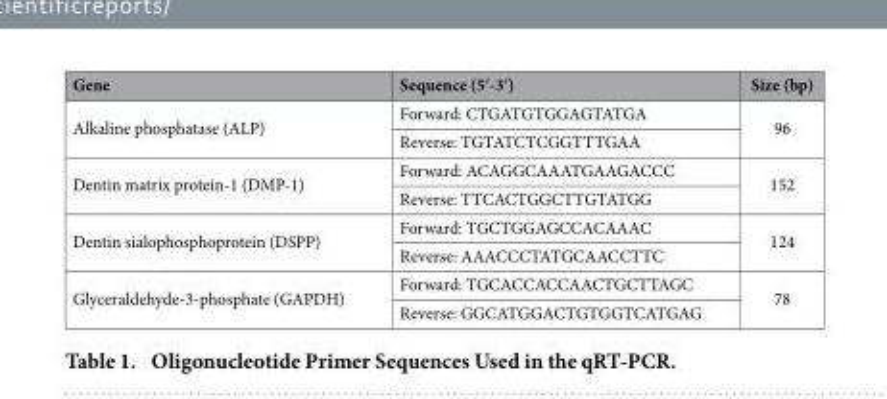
<table><thead><tr><td>Gene</td><td>Sequence (5′ -3′ )</td><td>Size (bp)</td></tr></thead><tbody><tr><td rowspan="2">Alkaline phosphatase (ALP)</td><td>Forward: CTGATGTGGAGTATGA</td><td rowspan="2">96</td></tr><tr><td>Reverse: TGTATCTCGGTTTGAA</td></tr><tr><td rowspan="2">Dentin matrix protein-1 (DMP-1)</td><td>Forward: ACAGGCAAATGAAGACCC</td><td rowspan="2">152</td></tr><tr><td>Reverse: TTCACTGGCTTGTATGG</td></tr><tr><td rowspan="2">Dentin sialophosphoprotein (DSPP)</td><td>Forward: TGCTGGAGCCACAAAC</td><td rowspan="2">124</td></tr><tr><td>Reverse: AAACCCTATGCAACCTTC</td></tr><tr><td rowspan="2">Glyceraldehyde-3-phosphate (GAPDH)</td><td>Forward: TGCACCACCAACTGCTTAGC</td><td rowspan="2">78</td></tr><tr><td>Reverse: GGCATGGACTGTGGTCATGAG</td></tr></tbody></table>